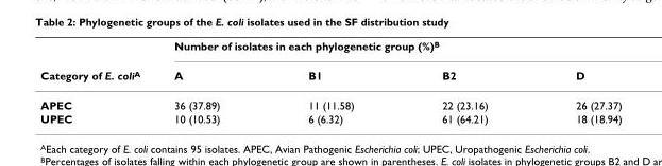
<table><thead><tr><td rowspan="2">Category of E. coli<sup>A</sup></td><td colspan="4">Number of isolates in each phylogenetic group (%)<sup>B</sup></td></tr><tr><td>A</td><td>B1</td><td>B2</td><td>D</td></tr></thead><tbody><tr><td>APEC</td><td>36 (37.89)</td><td>11 (11.58)</td><td>22 (23.16)</td><td>26 (27.37)</td></tr><tr><td>UPEC</td><td>10 (10.53)</td><td>6 (6.32)</td><td>61 (64.21)</td><td>18 (18.94)</td></tr></tbody></table>